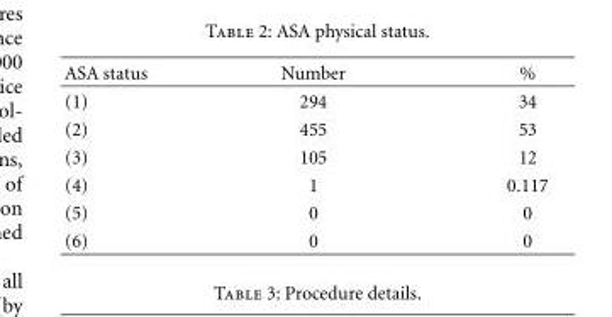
<table><thead><tr><td>ASA status</td><td>Number</td><td>%</td></tr></thead><tbody><tr><td>(1)</td><td>294</td><td>34</td></tr><tr><td>(2)</td><td>455</td><td>53</td></tr><tr><td>(3)</td><td>105</td><td>12</td></tr><tr><td>(4)</td><td>1</td><td>0.117</td></tr><tr><td>(5)</td><td>0</td><td>0</td></tr><tr><td>(6)</td><td>0</td><td>0</td></tr></tbody></table>